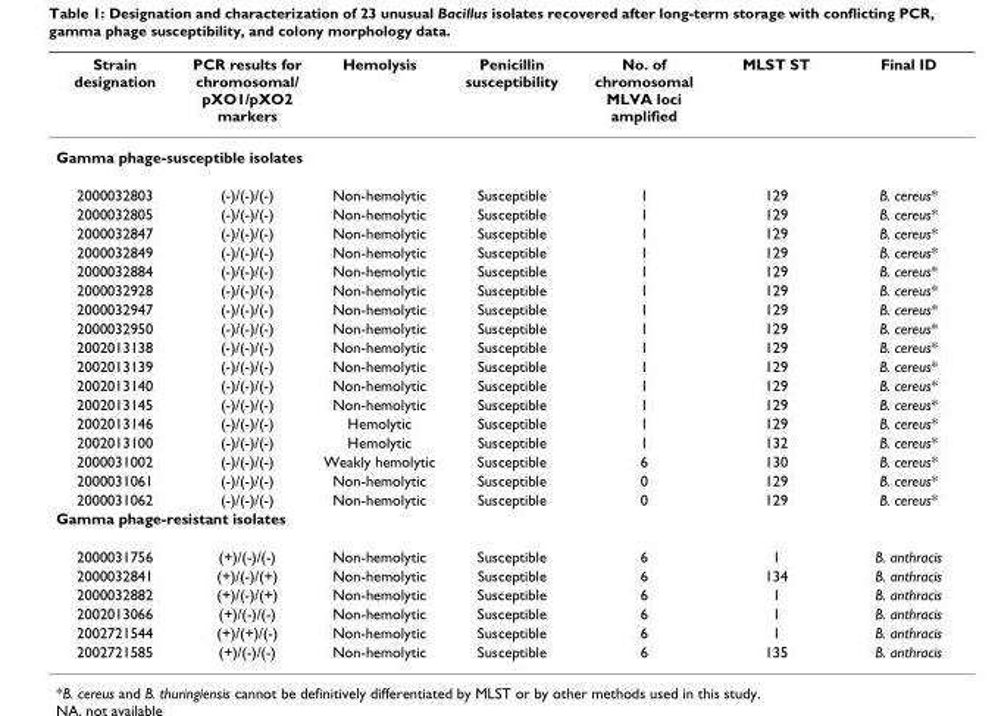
<table><thead><tr><td>Strain designation</td><td>PCR results for chromosomal/ pXO1/pXO2 markers</td><td>Hemolysis</td><td>Penicillin susceptibility</td><td>No. of chromosomal MLVA loci amplified</td><td>MLST ST</td><td>Final ID</td></tr></thead><tbody><tr><td colspan="7">Gamma phage-susceptible isolates</td></tr><tr><td>2000032803</td><td>(-)/(-)/(-)</td><td>Non-hemolytic</td><td>Susceptible</td><td>1</td><td>129</td><td>B. cereus*</td></tr><tr><td>2000032805</td><td>(-)/(-)/(-)</td><td>Non-hemolytic</td><td>Susceptible</td><td>1</td><td>129</td><td>B. cereus*</td></tr><tr><td>2000032847</td><td>(-)/(-)/(-)</td><td>Non-hemolytic</td><td>Susceptible</td><td>1</td><td>129</td><td>B. cereus*</td></tr><tr><td>2000032849</td><td>(-)/(-)/(-)</td><td>Non-hemolytic</td><td>Susceptible</td><td>1</td><td>129</td><td>B. cereus*</td></tr><tr><td>2000032884</td><td>(-)/(-)/(-)</td><td>Non-hemolytic</td><td>Susceptible</td><td>1</td><td>129</td><td>B. cereus*</td></tr><tr><td>2000032928</td><td>(-)/(-)/(-)</td><td>Non-hemolytic</td><td>Susceptible</td><td>1</td><td>129</td><td>B. cereus*</td></tr><tr><td>2000032947</td><td>(-)/(-)/(-)</td><td>Non-hemolytic</td><td>Susceptible</td><td>1</td><td>129</td><td>B. cereus*</td></tr><tr><td>2000032950</td><td>(-)/(-)/(-)</td><td>Non-hemolytic</td><td>Susceptible</td><td>1</td><td>129</td><td>B. cereus*</td></tr><tr><td>2002013138</td><td>(-)/(-)/(-)</td><td>Non-hemolytic</td><td>Susceptible</td><td>1</td><td>129</td><td>B. cereus*</td></tr><tr><td>2002013139</td><td>(-)/(-)/(-)</td><td>Non-hemolytic</td><td>Susceptible</td><td>1</td><td>129</td><td>B. cereus*</td></tr><tr><td>2002013140</td><td>(-)/(-)/(-)</td><td>Non-hemolytic</td><td>Susceptible</td><td>1</td><td>129</td><td>B. cereus*</td></tr><tr><td>2002013145</td><td>(-)/(-)/(-)</td><td>Non-hemolytic</td><td>Susceptible</td><td>1</td><td>129</td><td>B. cereus*</td></tr><tr><td>2002013146</td><td>(-)/(-)/(-)</td><td>Hemolytic</td><td>Susceptible</td><td>1</td><td>129</td><td>B. cereus*</td></tr><tr><td>2002013100</td><td>(-)/(-)/(-)</td><td>Hemolytic</td><td>Susceptible</td><td>1</td><td>132</td><td>B. cereus*</td></tr><tr><td>2000031002</td><td>(-)/(-)/(-)</td><td>Weakly hemolytic</td><td>Susceptible</td><td>6</td><td>130</td><td>B. cereus*</td></tr><tr><td>2000031061</td><td>(-)/(-)/(-)</td><td>Non-hemolytic</td><td>Susceptible</td><td>0</td><td>129</td><td>B. cereus*</td></tr><tr><td>2000031062</td><td>(-)/(-)/(-)</td><td>Non-hemolytic</td><td>Susceptible</td><td>0</td><td>129</td><td>B. cereus*</td></tr><tr><td colspan="7">Gamma phage-resistant isolates</td></tr><tr><td>2000031756</td><td>(+)/(-)/(-)</td><td>Non-hemolytic</td><td>Susceptible</td><td>6</td><td>1</td><td>B. anthracis</td></tr><tr><td>2000032841</td><td>(+)/(-)/(+)</td><td>Non-hemolytic</td><td>Susceptible</td><td>6</td><td>134</td><td>B. anthracis</td></tr><tr><td>2000032882</td><td>(+)/(-)/(+)</td><td>Non-hemolytic</td><td>Susceptible</td><td>6</td><td>1</td><td>B. anthracis</td></tr><tr><td>2002013066</td><td>(+)/(-)/(-)</td><td>Non-hemolytic</td><td>Susceptible</td><td>6</td><td>1</td><td>B. anthracis</td></tr><tr><td>2002721544</td><td>(+)/(+)/(-)</td><td>Non-hemolytic</td><td>Susceptible</td><td>6</td><td>1</td><td>B. anthracis</td></tr><tr><td>2002721585</td><td>(+)/(-)/(-)</td><td>Non-hemolytic</td><td>Susceptible</td><td>6</td><td>135</td><td>B. anthracis</td></tr></tbody></table>